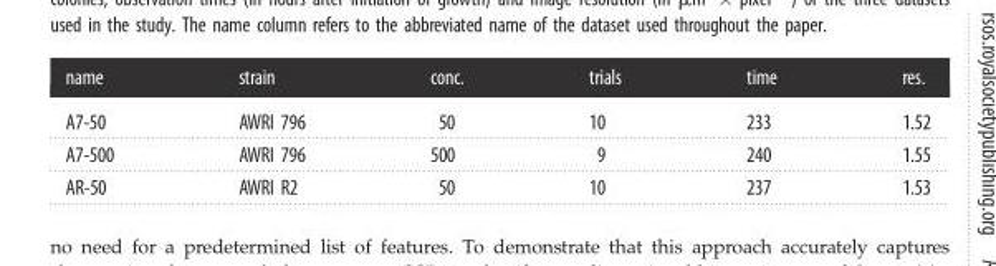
<table><thead><tr><td>name</td><td>strain</td><td>conc.</td><td>trials</td><td>time</td><td>res.</td></tr></thead><tbody><tr><td>A7-50</td><td>AWRI 796</td><td>50</td><td>10</td><td>233</td><td>1.52</td></tr><tr><td>A7-500</td><td>AWRI 796</td><td>500</td><td>9</td><td>240</td><td>1.55</td></tr><tr><td>AR-50</td><td>AWRI R2</td><td>50</td><td>10</td><td>237</td><td>1.53</td></tr></tbody></table>